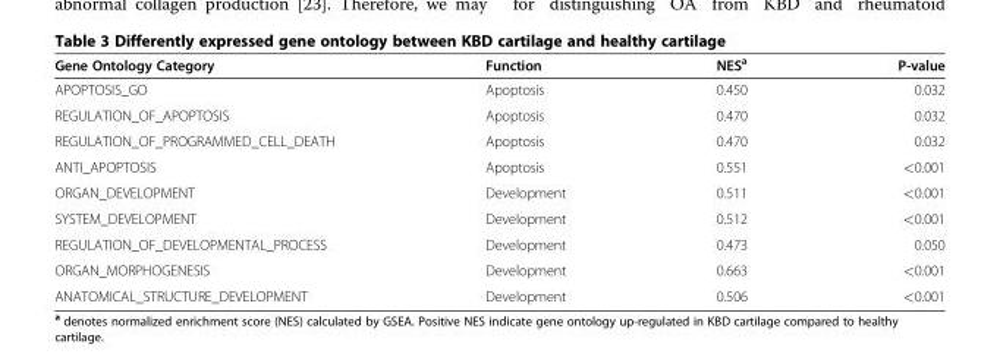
<table><thead><tr><td>Gene Ontology Category</td><td>Function</td><td>NES<sup>a</sup></td><td>P-value</td></tr></thead><tbody><tr><td>APOPTOSIS_GO</td><td>Apoptosis</td><td>0.450</td><td>0.032</td></tr><tr><td>REGULATION_OF_APOPTOSIS</td><td>Apoptosis</td><td>0.470</td><td>0.032</td></tr><tr><td>REGULATION_OF_PROGRAMMED_CELL_DEATH</td><td>Apoptosis</td><td>0.470</td><td>0.032</td></tr><tr><td>ANTI_APOPTOSIS</td><td>Apoptosis</td><td>0.551</td><td>&lt;0.001</td></tr><tr><td>ORGAN_DEVELOPMENT</td><td>Development</td><td>0.511</td><td>&lt;0.001</td></tr><tr><td>SYSTEM_DEVELOPMENT</td><td>Development</td><td>0.512</td><td>&lt;0.001</td></tr><tr><td>REGULATION_OF_DEVELOPMENTAL_PROCESS</td><td>Development</td><td>0.473</td><td>0.050</td></tr><tr><td>ORGAN_MORPHOGENESIS</td><td>Development</td><td>0.663</td><td>&lt;0.001</td></tr><tr><td>ANATOMICAL_STRUCTURE_DEVELOPMENT</td><td>Development</td><td>0.506</td><td>&lt;0.001</td></tr></tbody></table>